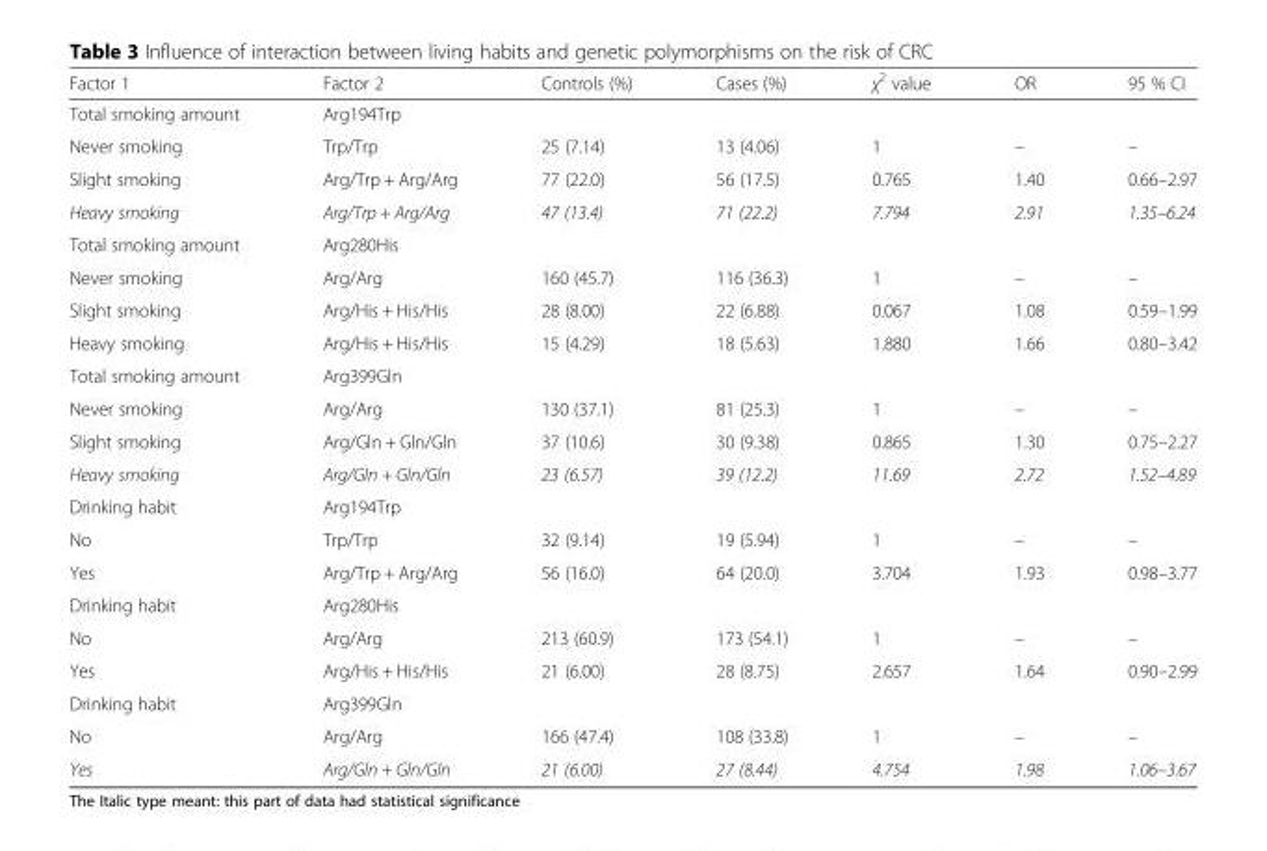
<table><thead><tr><td>Factor 1</td><td>Factor 2</td><td>Controls (%)</td><td>Cases (%)</td><td>χ<sup>2</sup> value</td><td>OR</td><td>95 % CI</td></tr></thead><tbody><tr><td>Total smoking amount</td><td>Arg194Trp</td><td></td><td></td><td></td><td></td><td></td></tr><tr><td>Never smoking</td><td>Trp/Trp</td><td>25 (7.14)</td><td>13 (4.06)</td><td>1</td><td>–</td><td>–</td></tr><tr><td>Slight smoking</td><td>Arg/Trp + Arg/Arg</td><td>77 (22.0)</td><td>56 (17.5)</td><td>0.765</td><td>1.40</td><td>0.66–2.97</td></tr><tr><td>Heavy smoking</td><td>Arg/Trp + Arg/Arg</td><td>47 (13.4)</td><td>71 (22.2)</td><td>7.794</td><td>2.91</td><td>1.35–6.24</td></tr><tr><td>Total smoking amount</td><td>Arg280His</td><td></td><td></td><td></td><td></td><td></td></tr><tr><td>Never smoking</td><td>Arg/Arg</td><td>160 (45.7)</td><td>116 (36.3)</td><td>1</td><td>–</td><td>–</td></tr><tr><td>Slight smoking</td><td>Arg/His + His/His</td><td>28 (8.00)</td><td>22 (6.88)</td><td>0.067</td><td>1.08</td><td>0.59–1.99</td></tr><tr><td>Heavy smoking</td><td>Arg/His + His/His</td><td>15 (4.29)</td><td>18 (5.63)</td><td>1.880</td><td>1.66</td><td>0.80–3.42</td></tr><tr><td>Total smoking amount</td><td>Arg399Gln</td><td></td><td></td><td></td><td></td><td></td></tr><tr><td>Never smoking</td><td>Arg/Arg</td><td>130 (37.1)</td><td>81 (25.3)</td><td>1</td><td>–</td><td>–</td></tr><tr><td>Slight smoking</td><td>Arg/Gln + Gln/Gln</td><td>37 (10.6)</td><td>30 (9.38)</td><td>0.865</td><td>1.30</td><td>0.75–2.27</td></tr><tr><td>Heavy smoking</td><td>Arg/Gln + Gln/Gln</td><td>23 (6.57)</td><td>39 (12.2)</td><td>11.69</td><td>2.72</td><td>1.52–4.89</td></tr><tr><td>Drinking habit</td><td>Arg194Trp</td><td></td><td></td><td></td><td></td><td></td></tr><tr><td>No</td><td>Trp/Trp</td><td>32 (9.14)</td><td>19 (5.94)</td><td>1</td><td>–</td><td>–</td></tr><tr><td>Yes</td><td>Arg/Trp + Arg/Arg</td><td>56 (16.0)</td><td>64 (20.0)</td><td>3.704</td><td>1.93</td><td>0.98–3.77</td></tr><tr><td>Drinking habit</td><td>Arg280His</td><td></td><td></td><td></td><td></td><td></td></tr><tr><td>No</td><td>Arg/Arg</td><td>213 (60.9)</td><td>173 (54.1)</td><td>1</td><td>–</td><td>–</td></tr><tr><td>Yes</td><td>Arg/His + His/His</td><td>21 (6.00)</td><td>28 (8.75)</td><td>2.657</td><td>1.64</td><td>0.90–2.99</td></tr><tr><td>Drinking habit</td><td>Arg399Gln</td><td></td><td></td><td></td><td></td><td></td></tr><tr><td>No</td><td>Arg/Arg</td><td>166 (47.4)</td><td>108 (33.8)</td><td>1</td><td>–</td><td>–</td></tr><tr><td>Yes</td><td>Arg/Gln + Gln/Gln</td><td>21 (6.00)</td><td>27 (8.44)</td><td>4.754</td><td>1.98</td><td>1.06–3.67</td></tr></tbody></table>